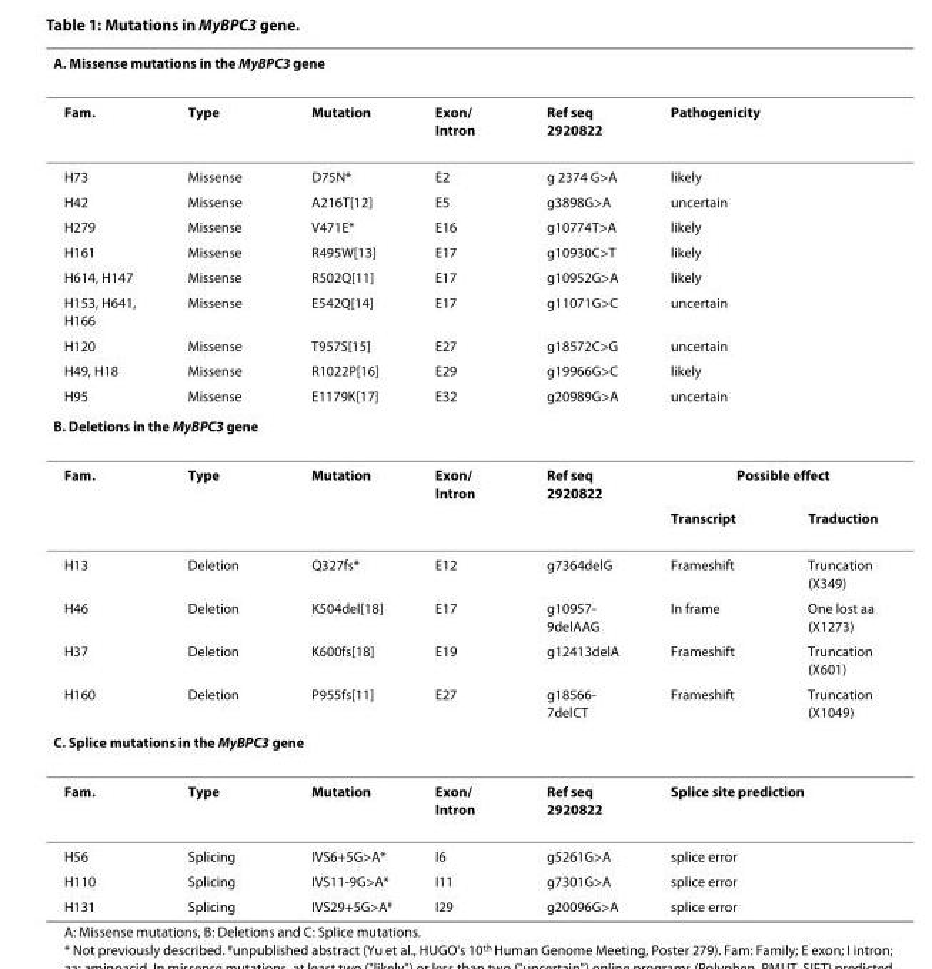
<table><thead><tr><td colspan="7">A. Missense mutations in the MyBPC3 gene</td></tr><tr><td>Fam.</td><td>Type</td><td>Mutation</td><td>Exon/ Intron</td><td>Ref seq 2920822</td><td>Pathogenicity</td><td></td></tr></thead><tbody><tr><td>H73</td><td>Missense</td><td>D75N*</td><td>E2</td><td>g 2374 G&gt;A</td><td>likely</td><td></td></tr><tr><td>H42</td><td>Missense</td><td>A216T[12]</td><td>E5</td><td>g3898G&gt;A</td><td>uncertain</td><td></td></tr><tr><td>H279</td><td>Missense</td><td>V471E*</td><td>E16</td><td>g10774T&gt;A</td><td>likely</td><td></td></tr><tr><td>H161</td><td>Missense</td><td>R495W[13]</td><td>E17</td><td>g10930C&gt;T</td><td>likely</td><td></td></tr><tr><td>H614, H147</td><td>Missense</td><td>R502Q[11]</td><td>E17</td><td>g10952G&gt;A</td><td>likely</td><td></td></tr><tr><td>H153, H641, H166</td><td>Missense</td><td>E542Q[14]</td><td>E17</td><td>g11071G&gt;C</td><td>uncertain</td><td></td></tr><tr><td>H120</td><td>Missense</td><td>T957S[15]</td><td>E27</td><td>g18572C&gt;G</td><td>uncertain</td><td></td></tr><tr><td>H49, H18</td><td>Missense</td><td>R1022P[16]</td><td>E29</td><td>g19966G&gt;C</td><td>likely</td><td></td></tr><tr><td>H95</td><td>Missense</td><td>E1179K[17]</td><td>E32</td><td>g20989G&gt;A</td><td>uncertain</td><td></td></tr><tr><td colspan="7">B. Deletions in the MyBPC3 gene</td></tr><tr><td rowspan="2">Fam.</td><td>Type</td><td>Mutation</td><td>Exon/ Intron</td><td>Ref seq 2920822</td><td colspan="2">Possible effect</td></tr><tr><td></td><td></td><td></td><td></td><td>Transcript</td><td>Traduction</td></tr><tr><td>H13</td><td>Deletion</td><td>Q327fs*</td><td>E12</td><td>g7364delG</td><td>Frameshift</td><td>Truncation (X349)</td></tr><tr><td>H46</td><td>Deletion</td><td>K504del[18]</td><td>E17</td><td>g10957- 9delAAG</td><td>In frame</td><td>One lost aa (X1273)</td></tr><tr><td>H37</td><td>Deletion</td><td>K600fs[18]</td><td>E19</td><td>g12413delA</td><td>Frameshift</td><td>Truncation (X601)</td></tr><tr><td>H160</td><td>Deletion</td><td>P955fs[11]</td><td>E27</td><td>g18566- 7delCT</td><td>Frameshift</td><td>Truncation (X1049)</td></tr><tr><td colspan="7">C. Splice mutations in the MyBPC3 gene</td></tr><tr><td>Fam.</td><td>Type</td><td>Mutation</td><td>Exon/ Intron</td><td>Ref seq 2920822</td><td colspan="2">Splice site prediction</td></tr><tr><td>H56</td><td>Splicing</td><td>IVS6+5G&gt;A*</td><td>I6</td><td>g5261G&gt;A</td><td>splice error</td><td></td></tr><tr><td>H110</td><td>Splicing</td><td>IVS11-9G&gt;A*</td><td>I11</td><td>g7301G&gt;A</td><td>splice error</td><td></td></tr><tr><td>H131</td><td>Splicing</td><td>IVS29+5G&gt;A<sup>#</sup></td><td>I29</td><td>g20096G&gt;A</td><td>splice error</td><td></td></tr></tbody></table>